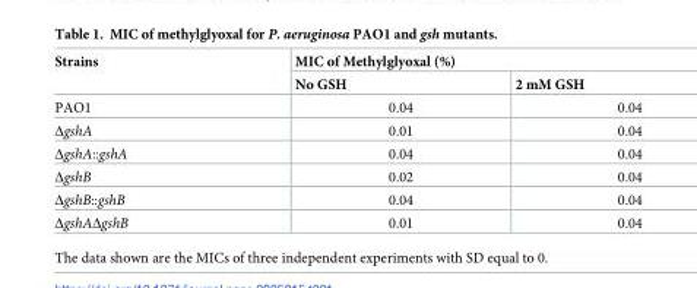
<table><thead><tr><td rowspan="2">Strains</td><td colspan="2">MIC of Methylglyoxal (%)</td></tr><tr><td>No GSH</td><td>2 mM GSH</td></tr></thead><tbody><tr><td>PAO1</td><td>0.04</td><td>0.04</td></tr><tr><td>ΔgshA</td><td>0.01</td><td>0.04</td></tr><tr><td>ΔgshA::gshA</td><td>0.04</td><td>0.04</td></tr><tr><td>ΔgshB</td><td>0.02</td><td>0.04</td></tr><tr><td>ΔgshB::gshB</td><td>0.04</td><td>0.04</td></tr><tr><td>ΔgshAΔgshB</td><td>0.01</td><td>0.04</td></tr></tbody></table>